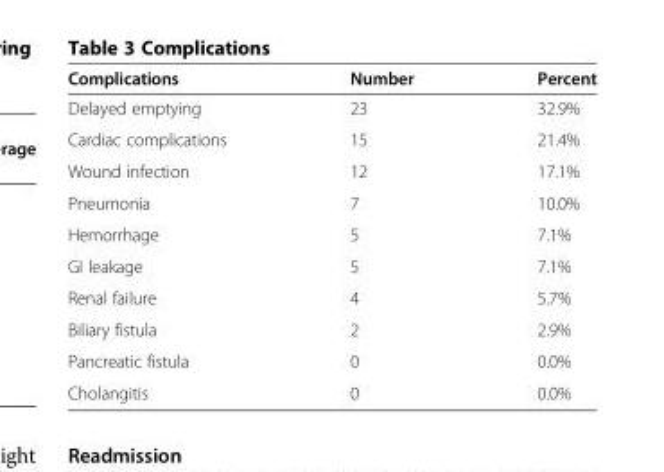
<table><thead><tr><td>Complications</td><td>Number</td><td>Percent</td></tr></thead><tbody><tr><td>Delayed emptying</td><td>23</td><td>32.9%</td></tr><tr><td>Cardiac complications</td><td>15</td><td>21.4%</td></tr><tr><td>Wound infection</td><td>12</td><td>17.1%</td></tr><tr><td>Pneumonia</td><td>7</td><td>10.0%</td></tr><tr><td>Hemorrhage</td><td>5</td><td>7.1%</td></tr><tr><td>GI leakage</td><td>5</td><td>7.1%</td></tr><tr><td>Renal failure</td><td>4</td><td>5.7%</td></tr><tr><td>Biliary fistula</td><td>2</td><td>2.9%</td></tr><tr><td>Pancreatic fistula</td><td>0</td><td>0.0%</td></tr><tr><td>Cholangitis</td><td>0</td><td>0.0%</td></tr></tbody></table>